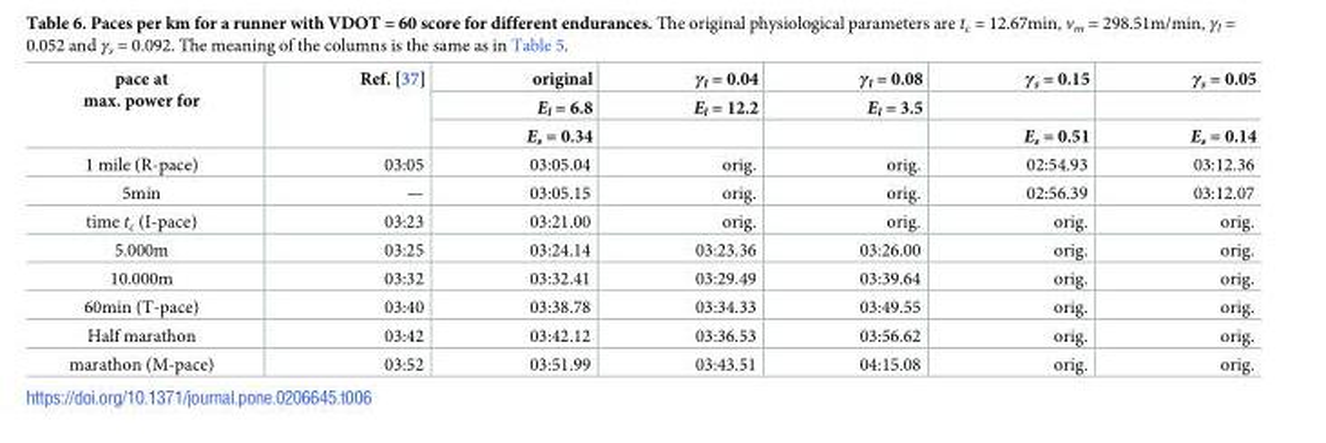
<table><thead><tr><td rowspan="3">pace at max. power for</td><td rowspan="3">Ref. [37]</td><td rowspan="3">original E<sub>l</sub> = 6.8 E<sub>s</sub> = 0.34</td><td rowspan="3">γ<sub>l</sub> = 0.04 E<sub>l</sub> = 12.2</td><td rowspan="3">γ<sub>l</sub> = 0.08 E<sub>l</sub> = 3.5</td><td rowspan="3">γ<sub>s</sub> = 0.15 E<sub>s</sub> = 0.51</td><td rowspan="3">γ<sub>s</sub> = 0.05 E<sub>s</sub> = 0.14</td></tr><tr></tr><tr></tr></thead><tbody><tr><td>1 mile (R-pace)</td><td>03:05</td><td>03:05.04</td><td>orig.</td><td>orig.</td><td>02:54.93</td><td>03:12.36</td></tr><tr><td>5min</td><td>—</td><td>03:05.15</td><td>orig.</td><td>orig.</td><td>02:56.39</td><td>03:12.07</td></tr><tr><td>time t<sub>c</sub> (I-pace)</td><td>03:23</td><td>03:21.00</td><td>orig.</td><td>orig.</td><td>orig.</td><td>orig.</td></tr><tr><td>5.000m</td><td>03:25</td><td>03:24.14</td><td>03:23.36</td><td>03:26.00</td><td>orig.</td><td>orig.</td></tr><tr><td>10.000m</td><td>03:32</td><td>03:32.41</td><td>03:29.49</td><td>03:39.64</td><td>orig.</td><td>orig.</td></tr><tr><td>60min (T-pace)</td><td>03:40</td><td>03:38.78</td><td>03:34.33</td><td>03:49.55</td><td>orig.</td><td>orig.</td></tr><tr><td>Half marathon</td><td>03:42</td><td>03:42.12</td><td>03:36.53</td><td>03:56.62</td><td>orig.</td><td>orig.</td></tr><tr><td>marathon (M-pace)</td><td>03:52</td><td>03:51.99</td><td>03:43.51</td><td>04:15.08</td><td>orig.</td><td>orig.</td></tr></tbody></table>